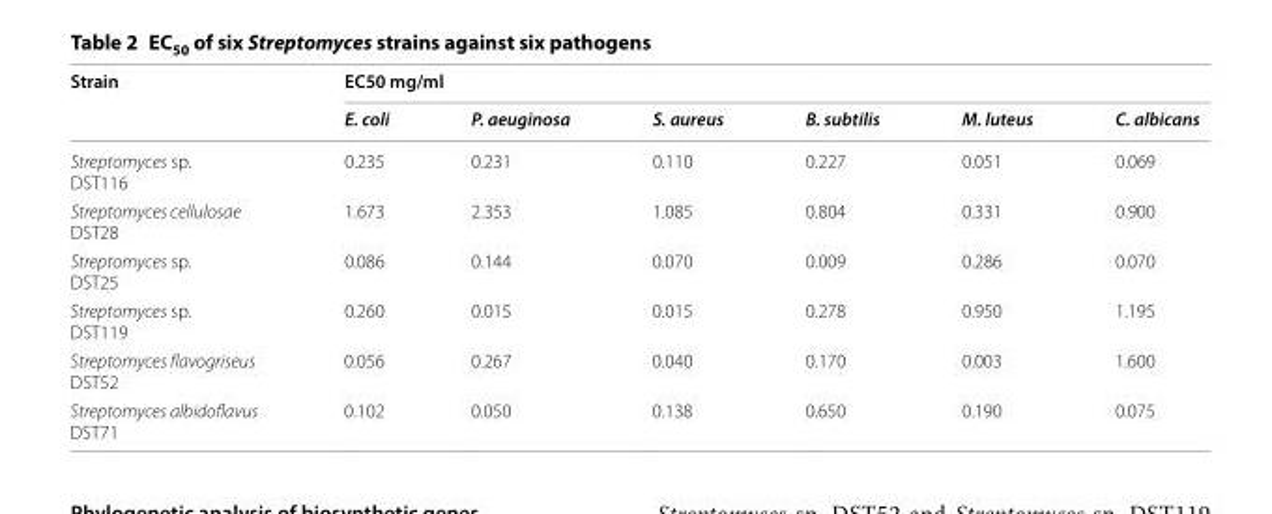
<table><thead><tr><td rowspan="2">Strain</td><td colspan="6">EC50 mg/ml</td></tr><tr><td>E. coli</td><td>P. aeuginosa</td><td>S. aureus</td><td>B. subtilis</td><td>M. luteus</td><td>C. albicans</td></tr></thead><tbody><tr><td>Streptomyces sp. DST116</td><td>0.235</td><td>0.231</td><td>0.110</td><td>0.227</td><td>0.051</td><td>0.069</td></tr><tr><td>Streptomyces cellulosae DST28</td><td>1.673</td><td>2.353</td><td>1.085</td><td>0.804</td><td>0.331</td><td>0.900</td></tr><tr><td>Streptomyces sp. DST25</td><td>0.086</td><td>0.144</td><td>0.070</td><td>0.009</td><td>0.286</td><td>0.070</td></tr><tr><td>Streptomyces sp. DST119</td><td>0.260</td><td>0.015</td><td>0.015</td><td>0.278</td><td>0.950</td><td>1.195</td></tr><tr><td>Streptomyces flavogriseus DST52</td><td>0.056</td><td>0.267</td><td>0.040</td><td>0.170</td><td>0.003</td><td>1.600</td></tr><tr><td>Streptomyces albidoflavus DST71</td><td>0.102</td><td>0.050</td><td>0.138</td><td>0.650</td><td>0.190</td><td>0.075</td></tr></tbody></table>